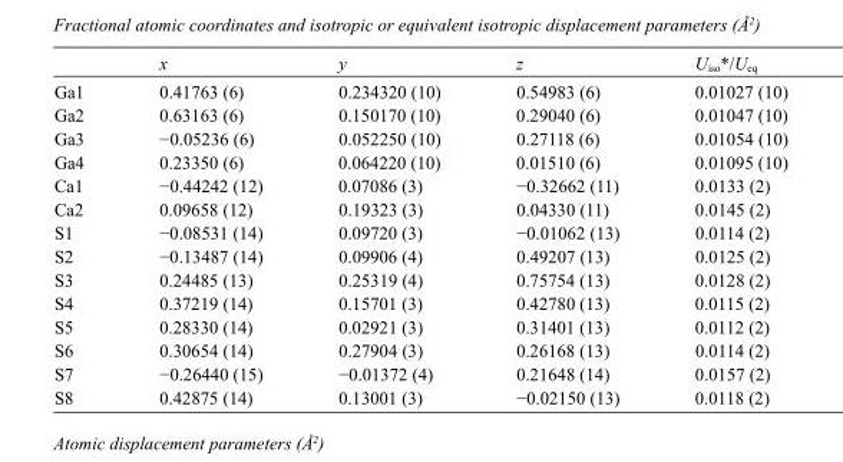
<table><thead><tr><td></td><td>x</td><td>y</td><td>z</td><td>U<sub>iso</sub>*/U<sub>eq</sub></td></tr></thead><tbody><tr><td>Ga1</td><td>0.41763 (6)</td><td>0.234320 (10)</td><td>0.54983 (6)</td><td>0.01027 (10)</td></tr><tr><td>Ga2</td><td>0.63163 (6)</td><td>0.150170 (10)</td><td>0.29040 (6)</td><td>0.01047 (10)</td></tr><tr><td>Ga3</td><td>−0.05236 (6)</td><td>0.052250 (10)</td><td>0.27118 (6)</td><td>0.01054 (10)</td></tr><tr><td>Ga4</td><td>0.23350 (6)</td><td>0.064220 (10)</td><td>0.01510 (6)</td><td>0.01095 (10)</td></tr><tr><td>Ca1</td><td>−0.44242 (12)</td><td>0.07086 (3)</td><td>−0.32662 (11)</td><td>0.0133 (2)</td></tr><tr><td>Ca2</td><td>0.09658 (12)</td><td>0.19323 (3)</td><td>0.04330 (11)</td><td>0.0145 (2)</td></tr><tr><td>S1</td><td>−0.08531 (14)</td><td>0.09720 (3)</td><td>−0.01062 (13)</td><td>0.0114 (2)</td></tr><tr><td>S2</td><td>−0.13487 (14)</td><td>0.09906 (4)</td><td>0.49207 (13)</td><td>0.0125 (2)</td></tr><tr><td>S3</td><td>0.24485 (13)</td><td>0.25319 (4)</td><td>0.75754 (13)</td><td>0.0128 (2)</td></tr><tr><td>S4</td><td>0.37219 (14)</td><td>0.15701 (3)</td><td>0.42780 (13)</td><td>0.0115 (2)</td></tr><tr><td>S5</td><td>0.28330 (14)</td><td>0.02921 (3)</td><td>0.31401 (13)</td><td>0.0112 (2)</td></tr><tr><td>S6</td><td>0.30654 (14)</td><td>0.27904 (3)</td><td>0.26168 (13)</td><td>0.0114 (2)</td></tr><tr><td>S7</td><td>−0.26440 (15)</td><td>−0.01372 (4)</td><td>0.21648 (14)</td><td>0.0157 (2)</td></tr><tr><td>S8</td><td>0.42875 (14)</td><td>0.13001 (3)</td><td>−0.02150 (13)</td><td>0.0118 (2)</td></tr></tbody></table>